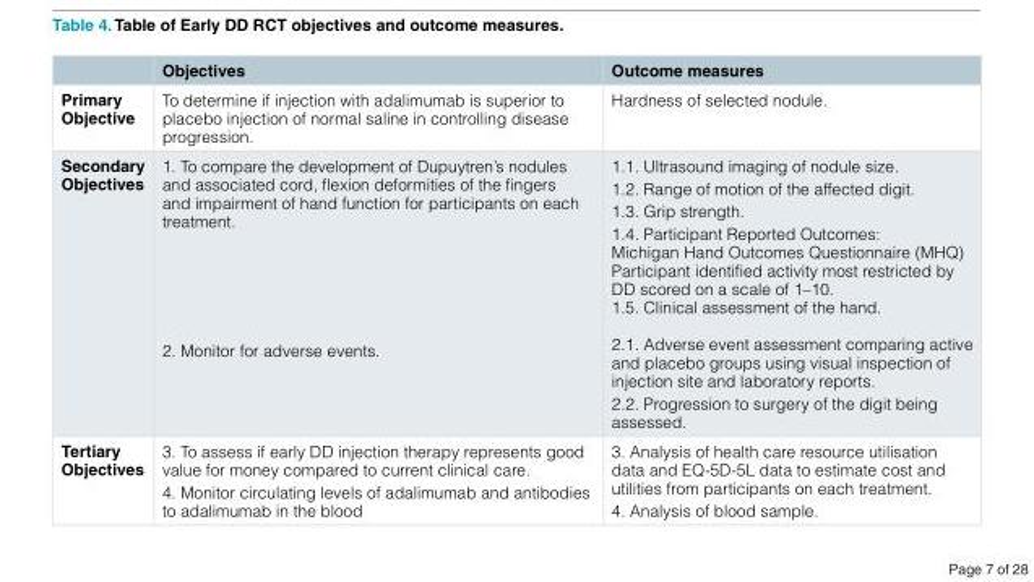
<table><thead><tr><td></td><td>Objectives</td><td>Outcome measures</td></tr></thead><tbody><tr><td>Primary Objective</td><td>To determine if injection with adalimumab is superior to placebo injection of normal saline in controlling disease progression.</td><td>Hardness of selected nodule.</td></tr><tr><td>Secondary Objectives</td><td>1. To compare the development of Dupuytren’s nodules and associated cord, flexion deformities of the fingers and impairment of hand function for participants on each treatment. 2. Monitor for adverse events.</td><td>1.1. Ultrasound imaging of nodule size. 1.2. Range of motion of the affected digit. 1.3. Grip strength. 1.4. Participant Reported Outcomes: Michigan Hand Outcomes Questionnaire (MHQ) Participant identified activity most restricted by DD scored on a scale of 1–10. 1.5. Clinical assessment of the hand. 2.1. Adverse event assessment comparing active and placebo groups using visual inspection of injection site and laboratory reports. 2.2. Progression to surgery of the digit being assessed.</td></tr><tr><td>Tertiary Objectives</td><td>3. To assess if early DD injection therapy represents good value for money compared to current clinical care. 4. Monitor circulating levels of adalimumab and antibodies to adalimumab in the blood</td><td>3. Analysis of health care resource utilisation data and EQ-5D-5L data to estimate cost and utilities from participants on each treatment. 4. Analysis of blood sample.</td></tr></tbody></table>